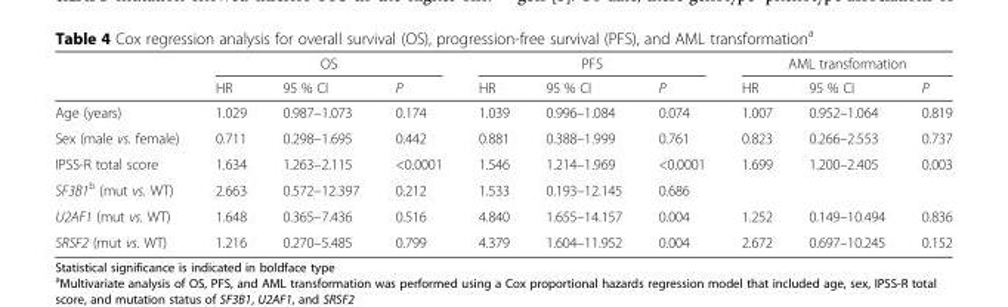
<table><thead><tr><td rowspan="2"></td><td colspan="3">OS</td><td colspan="3">PFS</td><td colspan="3">AML transformation</td></tr><tr><td>HR</td><td>95 % CI</td><td>P</td><td>HR</td><td>95 % CI</td><td>P</td><td>HR</td><td>95 % CI</td><td>P</td></tr></thead><tbody><tr><td>Age (years)</td><td>1.029</td><td>0.987–1.073</td><td>0.174</td><td>1.039</td><td>0.996–1.084</td><td>0.074</td><td>1.007</td><td>0.952–1.064</td><td>0.819</td></tr><tr><td>Sex (male vs. female)</td><td>0.711</td><td>0.298–1.695</td><td>0.442</td><td>0.881</td><td>0.388–1.999</td><td>0.761</td><td>0.823</td><td>0.266–2.553</td><td>0.737</td></tr><tr><td>IPSS-R total score</td><td>1.634</td><td>1.263–2.115</td><td>&lt;0.0001</td><td>1.546</td><td>1.214–1.969</td><td>&lt;0.0001</td><td>1.699</td><td>1.200–2.405</td><td>0.003</td></tr><tr><td>SF3B1<sup>b</sup> (mut vs. WT)</td><td>2.663</td><td>0.572–12.397</td><td>0.212</td><td>1.533</td><td>0.193–12.145</td><td>0.686</td><td></td><td></td><td></td></tr><tr><td>U2AF1 (mut vs. WT)</td><td>1.648</td><td>0.365–7.436</td><td>0.516</td><td>4.840</td><td>1.655–14.157</td><td>0.004</td><td>1.252</td><td>0.149–10.494</td><td>0.836</td></tr><tr><td>SRSF2 (mut vs. WT)</td><td>1.216</td><td>0.270–5.485</td><td>0.799</td><td>4.379</td><td>1.604–11.952</td><td>0.004</td><td>2.672</td><td>0.697–10.245</td><td>0.152</td></tr></tbody></table>